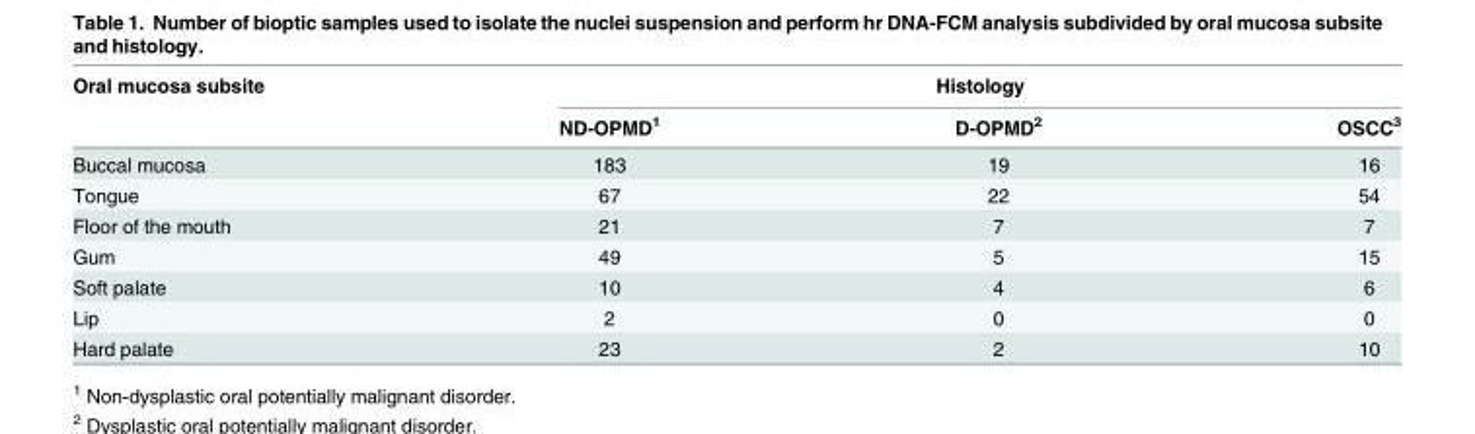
<table><thead><tr><td rowspan="2">Oral mucosa subsite</td><td colspan="3">Histology</td></tr><tr><td>ND-OPMD<sup>1</sup></td><td>D-OPMD<sup>2</sup></td><td>OSCC<sup>3</sup></td></tr></thead><tbody><tr><td>Buccal mucosa</td><td>183</td><td>19</td><td>16</td></tr><tr><td>Tongue</td><td>67</td><td>22</td><td>54</td></tr><tr><td>Floor of the mouth</td><td>21</td><td>7</td><td>7</td></tr><tr><td>Gum</td><td>49</td><td>5</td><td>15</td></tr><tr><td>Soft palate</td><td>10</td><td>4</td><td>6</td></tr><tr><td>Lip</td><td>2</td><td>0</td><td>0</td></tr><tr><td>Hard palate</td><td>23</td><td>2</td><td>10</td></tr></tbody></table>